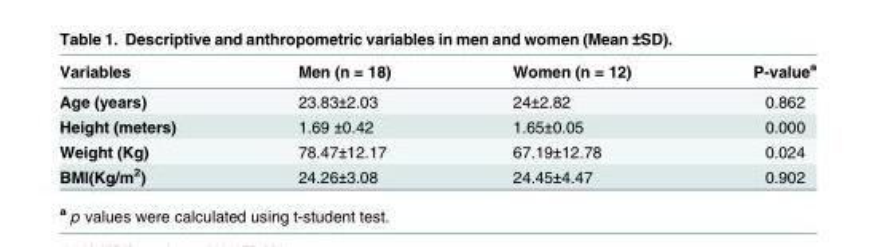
<table><thead><tr><td>Variables</td><td>Men (n = 18)</td><td>Women (n = 12)</td><td>P-value<sup>a</sup></td></tr></thead><tbody><tr><td>Age (years)</td><td>23.83±2.03</td><td>24±2.82</td><td>0.862</td></tr><tr><td>Height (meters)</td><td>1.69 ±0.42</td><td>1.65±0.05</td><td>0.000</td></tr><tr><td>Weight (Kg)</td><td>78.47±12.17</td><td>67.19±12.78</td><td>0.024</td></tr><tr><td>BMI(Kg/m<sup>2</sup>)</td><td>24.26±3.08</td><td>24.45±4.47</td><td>0.902</td></tr></tbody></table>